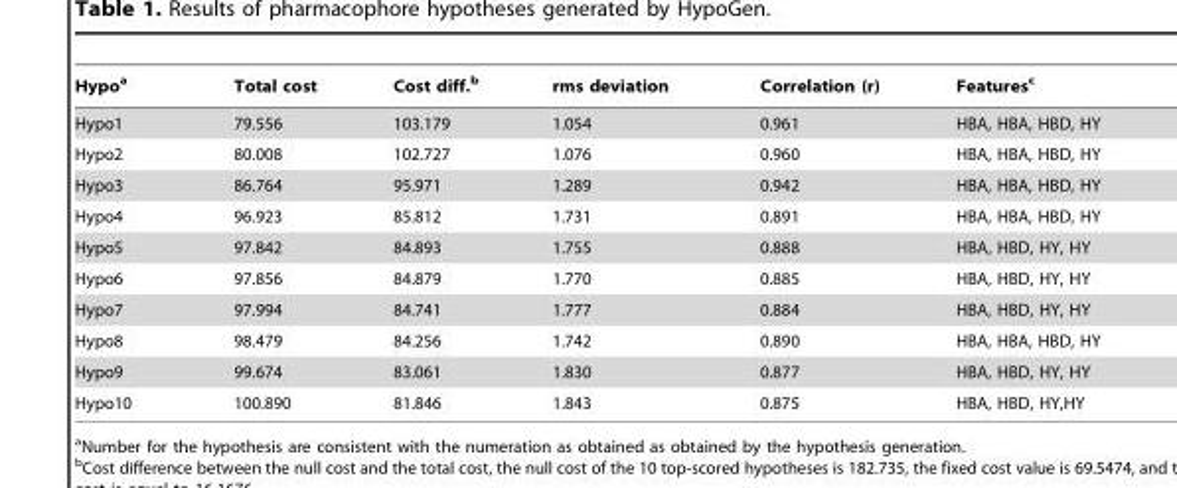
<table><thead><tr><td>Hypo<sup>a</sup></td><td>Total cost</td><td>Cost diff.<sup>b</sup></td><td>rms deviation</td><td>Correlation (r)</td><td>Features<sup>c</sup></td></tr></thead><tbody><tr><td>Hypo1</td><td>79.556</td><td>103.179</td><td>1.054</td><td>0.961</td><td>HBA, HBA, HBD, HY</td></tr><tr><td>Hypo2</td><td>80.008</td><td>102.727</td><td>1.076</td><td>0.960</td><td>HBA, HBA, HBD, HY</td></tr><tr><td>Hypo3</td><td>86.764</td><td>95.971</td><td>1.289</td><td>0.942</td><td>HBA, HBA, HBD, HY</td></tr><tr><td>Hypo4</td><td>96.923</td><td>85.812</td><td>1.731</td><td>0.891</td><td>HBA, HBA, HBD, HY</td></tr><tr><td>Hypo5</td><td>97.842</td><td>84.893</td><td>1.755</td><td>0.888</td><td>HBA, HBD, HY, HY</td></tr><tr><td>Hypo6</td><td>97.856</td><td>84.879</td><td>1.770</td><td>0.885</td><td>HBA, HBD, HY, HY</td></tr><tr><td>Hypo7</td><td>97.994</td><td>84.741</td><td>1.777</td><td>0.884</td><td>HBA, HBD, HY, HY</td></tr><tr><td>Hypo8</td><td>98.479</td><td>84.256</td><td>1.742</td><td>0.890</td><td>HBA, HBA, HBD, HY</td></tr><tr><td>Hypo9</td><td>99.674</td><td>83.061</td><td>1.830</td><td>0.877</td><td>HBA, HBD, HY, HY</td></tr><tr><td>Hypo10</td><td>100.890</td><td>81.846</td><td>1.843</td><td>0.875</td><td>HBA, HBD, HY,HY</td></tr></tbody></table>